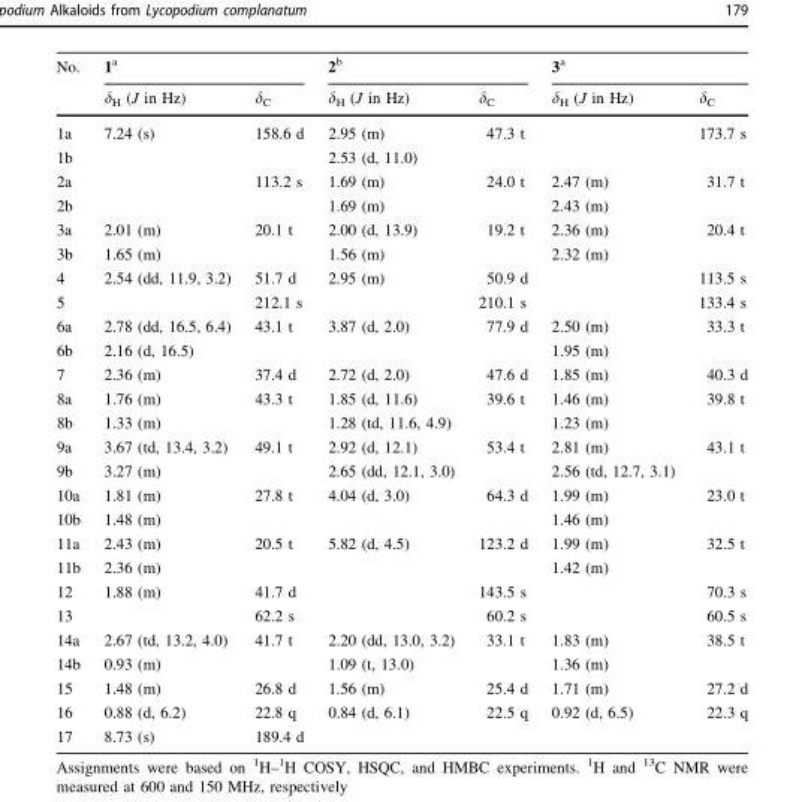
<table><thead><tr><td rowspan="2">No.</td><td colspan="2">1<sup>a</sup></td><td colspan="2">2<sup>b</sup></td><td colspan="2">3<sup>a</sup></td></tr><tr><td>δ<sub>H</sub> (J in Hz)</td><td>δ<sub>C</sub></td><td>δ<sub>H</sub> (J in Hz)</td><td>δ<sub>C</sub></td><td>δ<sub>H</sub> (J in Hz)</td><td>δ<sub>C</sub></td></tr></thead><tbody><tr><td>1a</td><td>7.24 (s)</td><td>158.6 d</td><td>2.95 (m)</td><td>47.3 t</td><td></td><td>173.7 s</td></tr><tr><td>1b</td><td></td><td></td><td>2.53 (d, 11.0)</td><td></td><td></td><td></td></tr><tr><td>2a</td><td></td><td>113.2 s</td><td>1.69 (m)</td><td>24.0 t</td><td>2.47 (m)</td><td>31.7 t</td></tr><tr><td>2b</td><td></td><td></td><td>1.69 (m)</td><td></td><td>2.43 (m)</td><td></td></tr><tr><td>3a</td><td>2.01 (m)</td><td>20.1 t</td><td>2.00 (d, 13.9)</td><td>19.2 t</td><td>2.36 (m)</td><td>20.4 t</td></tr><tr><td>3b</td><td>1.65 (m)</td><td></td><td>1.56 (m)</td><td></td><td>2.32 (m)</td><td></td></tr><tr><td>4</td><td>2.54 (dd, 11.9, 3.2)</td><td>51.7 d</td><td>2.95 (m)</td><td>50.9 d</td><td></td><td>113.5 s</td></tr><tr><td>5</td><td></td><td>212.1 s</td><td></td><td>210.1 s</td><td></td><td>133.4 s</td></tr><tr><td>6a</td><td>2.78 (dd, 16.5, 6.4)</td><td>43.1 t</td><td>3.87 (d, 2.0)</td><td>77.9 d</td><td>2.50 (m)</td><td>33.3 t</td></tr><tr><td>6b</td><td>2.16 (d, 16.5)</td><td></td><td></td><td></td><td>1.95 (m)</td><td></td></tr><tr><td>7</td><td>2.36 (m)</td><td>37.4 d</td><td>2.72 (d, 2.0)</td><td>47.6 d</td><td>1.85 (m)</td><td>40.3 d</td></tr><tr><td>8a</td><td>1.76 (m)</td><td>43.3 t</td><td>1.85 (d, 11.6)</td><td>39.6 t</td><td>1.46 (m)</td><td>39.8 t</td></tr><tr><td>8b</td><td>1.33 (m)</td><td></td><td>1.28 (td, 11.6, 4.9)</td><td></td><td>1.23 (m)</td><td></td></tr><tr><td>9a</td><td>3.67 (td, 13.4, 3.2)</td><td>49.1 t</td><td>2.92 (d, 12.1)</td><td>53.4 t</td><td>2.81 (m)</td><td>43.1 t</td></tr><tr><td>9b</td><td>3.27 (m)</td><td></td><td>2.65 (dd, 12.1, 3.0)</td><td></td><td>2.56 (td, 12.7, 3.1)</td><td></td></tr><tr><td>10a</td><td>1.81 (m)</td><td>27.8 t</td><td>4.04 (d, 3.0)</td><td>64.3 d</td><td>1.99 (m)</td><td>23.0 t</td></tr><tr><td>10b</td><td>1.48 (m)</td><td></td><td></td><td></td><td>1.46 (m)</td><td></td></tr><tr><td>11a</td><td>2.43 (m)</td><td>20.5 t</td><td>5.82 (d, 4.5)</td><td>123.2 d</td><td>1.99 (m)</td><td>32.5 t</td></tr><tr><td>11b</td><td>2.36 (m)</td><td></td><td></td><td></td><td>1.42 (m)</td><td></td></tr><tr><td>12</td><td>1.88 (m)</td><td>41.7 d</td><td></td><td>143.5 s</td><td></td><td>70.3 s</td></tr><tr><td>13</td><td></td><td>62.2 s</td><td></td><td>60.2 s</td><td></td><td>60.5 s</td></tr><tr><td>14a</td><td>2.67 (td, 13.2, 4.0)</td><td>41.7 t</td><td>2.20 (dd, 13.0, 3.2)</td><td>33.1 t</td><td>1.83 (m)</td><td>38.5 t</td></tr><tr><td>14b</td><td>0.93 (m)</td><td></td><td>1.09 (t, 13.0)</td><td></td><td>1.36 (m)</td><td></td></tr><tr><td>15</td><td>1.48 (m)</td><td>26.8 d</td><td>1.56 (m)</td><td>25.4 d</td><td>1.71 (m)</td><td>27.2 d</td></tr><tr><td>16</td><td>0.88 (d, 6.2)</td><td>22.8 q</td><td>0.84 (d, 6.1)</td><td>22.5 q</td><td>0.92 (d, 6.5)</td><td>22.3 q</td></tr><tr><td>17</td><td>8.73 (s)</td><td>189.4 d</td><td></td><td></td><td></td><td></td></tr></tbody></table>